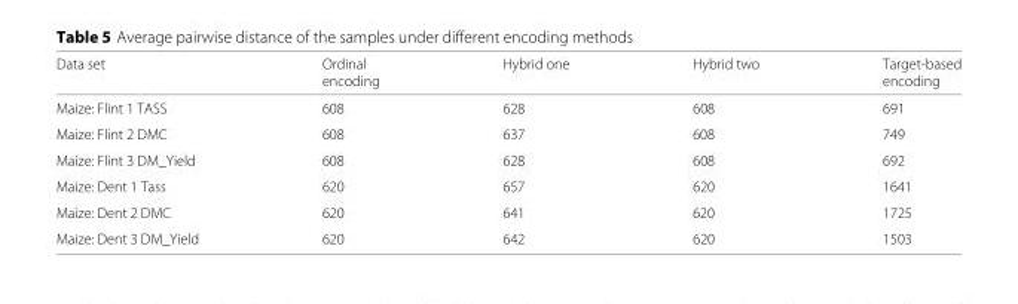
<table><thead><tr><td rowspan="2">Data set</td><td rowspan="2">Ordinal encoding</td><td rowspan="2">Hybrid one</td><td rowspan="2">Hybrid two</td><td rowspan="2">Target-based encoding</td></tr><tr></tr></thead><tbody><tr><td>Maize: Flint 1 TASS</td><td>608</td><td>628</td><td>608</td><td>691</td></tr><tr><td>Maize: Flint 2 DMC</td><td>608</td><td>637</td><td>608</td><td>749</td></tr><tr><td>Maize: Flint 3 DM_Yield</td><td>608</td><td>628</td><td>608</td><td>692</td></tr><tr><td>Maize: Dent 1 Tass</td><td>620</td><td>657</td><td>620</td><td>1641</td></tr><tr><td>Maize: Dent 2 DMC</td><td>620</td><td>641</td><td>620</td><td>1725</td></tr><tr><td>Maize: Dent 3 DM_Yield</td><td>620</td><td>642</td><td>620</td><td>1503</td></tr></tbody></table>